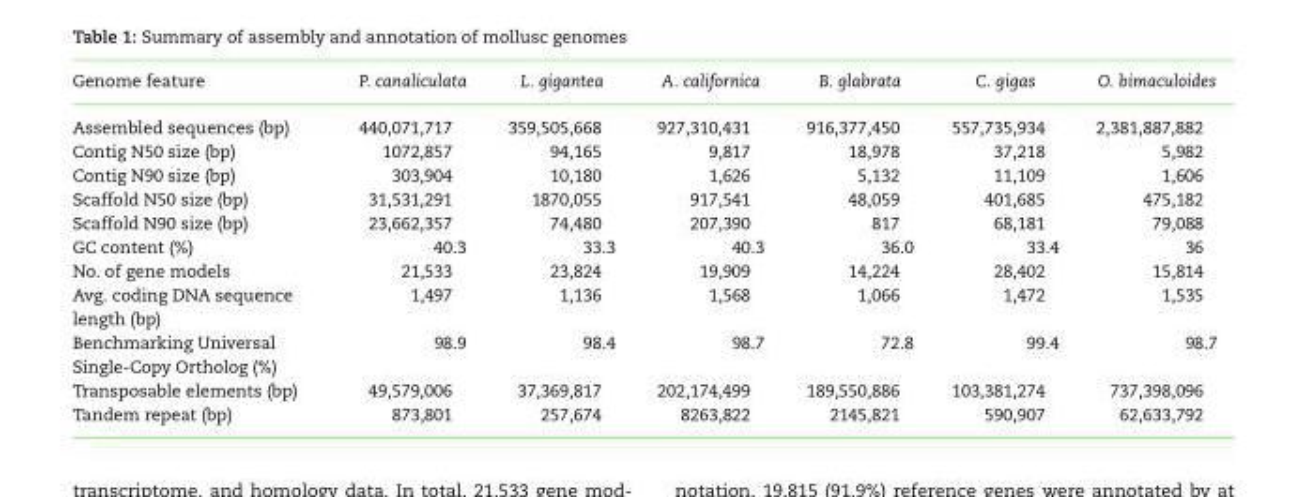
<table><thead><tr><td>Genome feature</td><td>P. canaliculata</td><td>L. gigantea</td><td>A. californica</td><td>B. glabrata</td><td>C. gigas</td><td>O. bimaculoides</td></tr></thead><tbody><tr><td>Assembled sequences (bp)</td><td>440,071,717</td><td>359,505,668</td><td>927,310,431</td><td>916,377,450</td><td>557,735,934</td><td>2,381,887,882</td></tr><tr><td>Contig N50 size (bp)</td><td>1072,857</td><td>94,165</td><td>9,817</td><td>18,978</td><td>37,218</td><td>5,982</td></tr><tr><td>Contig N90 size (bp)</td><td>303,904</td><td>10,180</td><td>1,626</td><td>5,132</td><td>11,109</td><td>1,606</td></tr><tr><td>Scaffold N50 size (bp)</td><td>31,531,291</td><td>1870,055</td><td>917,541</td><td>48,059</td><td>401,685</td><td>475,182</td></tr><tr><td>Scaffold N90 size (bp)</td><td>23,662,357</td><td>74,480</td><td>207,390</td><td>817</td><td>68,181</td><td>79,088</td></tr><tr><td>GC content (%)</td><td>40.3</td><td>33.3</td><td>40.3</td><td>36.0</td><td>33.4</td><td>36</td></tr><tr><td>No. of gene models</td><td>21,533</td><td>23,824</td><td>19,909</td><td>14,224</td><td>28,402</td><td>15,814</td></tr><tr><td>Avg. coding DNA sequence length (bp)</td><td>1,497</td><td>1,136</td><td>1,568</td><td>1,066</td><td>1,472</td><td>1,535</td></tr><tr><td>Benchmarking Universal Single-Copy Ortholog (%)</td><td>98.9</td><td>98.4</td><td>98.7</td><td>72.8</td><td>99.4</td><td>98.7</td></tr><tr><td>Transposable elements (bp)</td><td>49,579,006</td><td>37,369,817</td><td>202,174,499</td><td>189,550,886</td><td>103,381,274</td><td>737,398,096</td></tr><tr><td>Tandem repeat (bp)</td><td>873,801</td><td>257,674</td><td>8263,822</td><td>2145,821</td><td>590,907</td><td>62,633,792</td></tr></tbody></table>